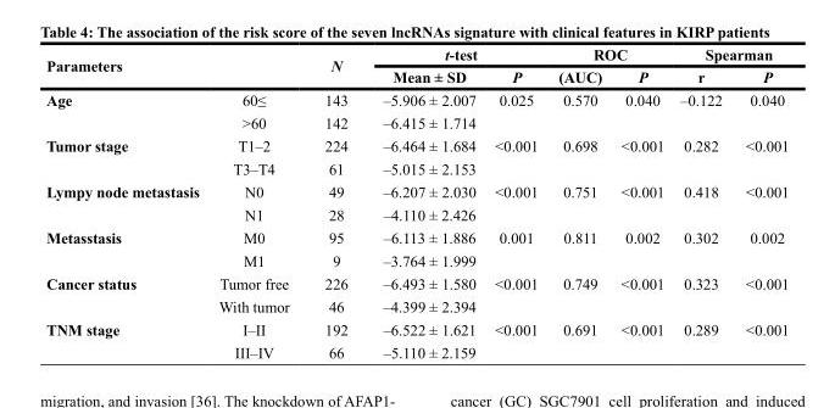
<table><thead><tr><td rowspan="2" colspan="2">Parameters</td><td rowspan="3">N 143</td><td colspan="2">t-test</td><td colspan="2">ROC</td><td colspan="2">Spearman</td></tr><tr><td rowspan="2">Mean ± SD –5.906 ± 2.007</td><td rowspan="2">P 0.025</td><td rowspan="2">(AUC) 0.570</td><td rowspan="2">P 0.040</td><td rowspan="2">r –0.122</td><td rowspan="2">P 0.040</td></tr><tr><td>Age</td><td>60≤</td></tr></thead><tbody><tr><td></td><td>&gt;60</td><td>142</td><td>–6.415 ± 1.714</td><td></td><td></td><td></td><td></td><td></td></tr><tr><td rowspan="2">Tumor stage</td><td>T1–2</td><td>224</td><td>–6.464 ± 1.684</td><td>&lt;0.001</td><td>0.698</td><td>&lt;0.001</td><td>0.282</td><td>&lt;0.001</td></tr><tr><td>T3–T4</td><td>61</td><td>–5.015 ± 2.153</td><td></td><td></td><td></td><td></td><td></td></tr><tr><td rowspan="2">Lympy node metastasis</td><td>N0</td><td>49</td><td>–6.207 ± 2.030</td><td>&lt;0.001</td><td>0.751</td><td>&lt;0.001</td><td>0.418</td><td>&lt;0.001</td></tr><tr><td>N1</td><td>28</td><td>–4.110 ± 2.426</td><td></td><td></td><td></td><td></td><td></td></tr><tr><td rowspan="2">Metasstasis</td><td>M0</td><td>95</td><td>–6.113 ± 1.886</td><td>0.001</td><td>0.811</td><td>0.002</td><td>0.302</td><td>0.002</td></tr><tr><td>M1</td><td>9</td><td>–3.764 ± 1.999</td><td></td><td></td><td></td><td></td><td></td></tr><tr><td rowspan="2">Cancer status</td><td>Tumor free</td><td>226</td><td>–6.493 ± 1.580</td><td>&lt;0.001</td><td>0.749</td><td>&lt;0.001</td><td>0.323</td><td>&lt;0.001</td></tr><tr><td>With tumor</td><td>46</td><td>–4.399 ± 2.394</td><td></td><td></td><td></td><td></td><td></td></tr><tr><td rowspan="2">TNM stage</td><td>I–II</td><td>192</td><td>–6.522 ± 1.621</td><td>&lt;0.001</td><td>0.691</td><td>&lt;0.001</td><td>0.289</td><td>&lt;0.001</td></tr><tr><td>III–IV</td><td>66</td><td>–5.110 ± 2.159</td><td></td><td></td><td></td><td></td><td></td></tr></tbody></table>